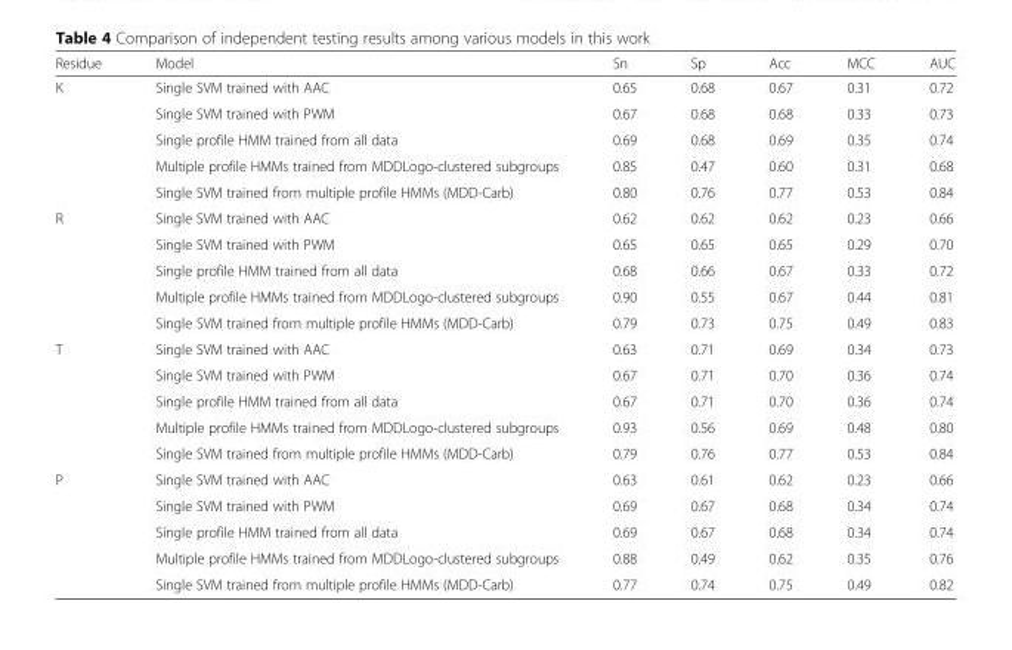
<table><thead><tr><td>Residue</td><td>Model</td><td>Sn</td><td>Sp</td><td>Acc</td><td>MCC</td><td>AUC</td></tr></thead><tbody><tr><td rowspan="5">K</td><td>Single SVM trained with AAC</td><td>0.65</td><td>0.68</td><td>0.67</td><td>0.31</td><td>0.72</td></tr><tr><td>Single SVM trained with PWM</td><td>0.67</td><td>0.68</td><td>0.68</td><td>0.33</td><td>0.73</td></tr><tr><td>Single profile HMM trained from all data</td><td>0.69</td><td>0.68</td><td>0.69</td><td>0.35</td><td>0.74</td></tr><tr><td>Multiple profile HMMs trained from MDDLogo-clustered subgroups</td><td>0.85</td><td>0.47</td><td>0.60</td><td>0.31</td><td>0.68</td></tr><tr><td>Single SVM trained from multiple profile HMMs (MDD-Carb)</td><td>0.80</td><td>0.76</td><td>0.77</td><td>0.53</td><td>0.84</td></tr><tr><td rowspan="5">R</td><td>Single SVM trained with AAC</td><td>0.62</td><td>0.62</td><td>0.62</td><td>0.23</td><td>0.66</td></tr><tr><td>Single SVM trained with PWM</td><td>0.65</td><td>0.65</td><td>0.65</td><td>0.29</td><td>0.70</td></tr><tr><td>Single profile HMM trained from all data</td><td>0.68</td><td>0.66</td><td>0.67</td><td>0.33</td><td>0.72</td></tr><tr><td>Multiple profile HMMs trained from MDDLogo-clustered subgroups</td><td>0.90</td><td>0.55</td><td>0.67</td><td>0.44</td><td>0.81</td></tr><tr><td>Single SVM trained from multiple profile HMMs (MDD-Carb)</td><td>0.79</td><td>0.73</td><td>0.75</td><td>0.49</td><td>0.83</td></tr><tr><td rowspan="5">T</td><td>Single SVM trained with AAC</td><td>0.63</td><td>0.71</td><td>0.69</td><td>0.34</td><td>0.73</td></tr><tr><td>Single SVM trained with PWM</td><td>0.67</td><td>0.71</td><td>0.70</td><td>0.36</td><td>0.74</td></tr><tr><td>Single profile HMM trained from all data</td><td>0.67</td><td>0.71</td><td>0.70</td><td>0.36</td><td>0.74</td></tr><tr><td>Multiple profile HMMs trained from MDDLogo-clustered subgroups</td><td>0.93</td><td>0.56</td><td>0.69</td><td>0.48</td><td>0.80</td></tr><tr><td>Single SVM trained from multiple profile HMMs (MDD-Carb)</td><td>0.79</td><td>0.76</td><td>0.77</td><td>0.53</td><td>0.84</td></tr><tr><td rowspan="5">P</td><td>Single SVM trained with AAC</td><td>0.63</td><td>0.61</td><td>0.62</td><td>0.23</td><td>0.66</td></tr><tr><td>Single SVM trained with PWM</td><td>0.69</td><td>0.67</td><td>0.68</td><td>0.34</td><td>0.74</td></tr><tr><td>Single profile HMM trained from all data</td><td>0.69</td><td>0.67</td><td>0.68</td><td>0.34</td><td>0.74</td></tr><tr><td>Multiple profile HMMs trained from MDDLogo-clustered subgroups</td><td>0.88</td><td>0.49</td><td>0.62</td><td>0.35</td><td>0.76</td></tr><tr><td>Single SVM trained from multiple profile HMMs (MDD-Carb)</td><td>0.77</td><td>0.74</td><td>0.75</td><td>0.49</td><td>0.82</td></tr></tbody></table>